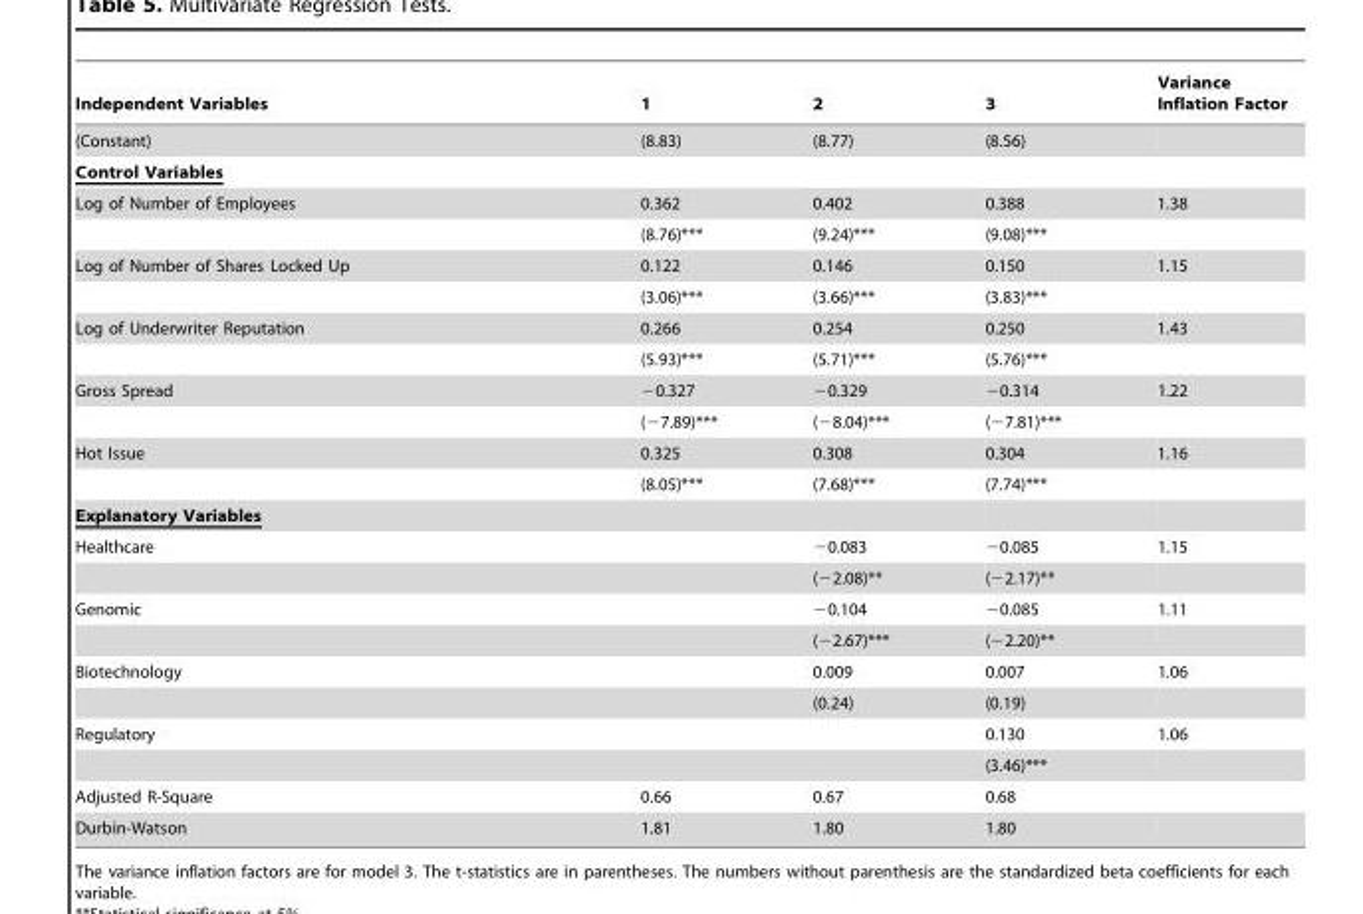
<table><thead><tr><td>Independent Variables</td><td>1</td><td>2</td><td>3</td><td>Variance Inflation Factor</td></tr></thead><tbody><tr><td>(Constant)</td><td>(8.83)</td><td>(8.77)</td><td>(8.56)</td><td></td></tr><tr><td colspan="5">Control Variables</td></tr><tr><td rowspan="2">Log of Number of Employees</td><td>0.362</td><td>0.402</td><td>0.388</td><td>1.38</td></tr><tr><td>(8.76)***</td><td>(9.24)***</td><td>(9.08)***</td><td></td></tr><tr><td rowspan="2">Log of Number of Shares Locked Up</td><td>0.122</td><td>0.146</td><td>0.150</td><td>1.15</td></tr><tr><td>(3.06)***</td><td>(3.66)***</td><td>(3.83)***</td><td></td></tr><tr><td rowspan="2">Log of Underwriter Reputation</td><td>0.266</td><td>0.254</td><td>0.250</td><td>1.43</td></tr><tr><td>(5.93)***</td><td>(5.71)***</td><td>(5.76)***</td><td></td></tr><tr><td rowspan="2">Gross Spread</td><td>−0.327</td><td>−0.329</td><td>−0.314</td><td>1.22</td></tr><tr><td>(−7.89)***</td><td>(−8.04)***</td><td>(−7.81)***</td><td></td></tr><tr><td rowspan="2">Hot Issue</td><td>0.325</td><td>0.308</td><td>0.304</td><td>1.16</td></tr><tr><td>(8.05)***</td><td>(7.68)***</td><td>(7.74)***</td><td></td></tr><tr><td colspan="5">Explanatory Variables</td></tr><tr><td rowspan="2">Healthcare</td><td></td><td>−0.083</td><td>−0.085</td><td>1.15</td></tr><tr><td></td><td>(−2.08)**</td><td>(−2.17)**</td><td></td></tr><tr><td rowspan="2">Genomic</td><td></td><td>−0.104</td><td>−0.085</td><td>1.11</td></tr><tr><td></td><td>(−2.67)***</td><td>(−2.20)**</td><td></td></tr><tr><td rowspan="2">Biotechnology</td><td></td><td>0.009</td><td>0.007</td><td>1.06</td></tr><tr><td></td><td>(0.24)</td><td>(0.19)</td><td></td></tr><tr><td rowspan="2">Regulatory</td><td></td><td></td><td>0.130</td><td>1.06</td></tr><tr><td></td><td></td><td>(3.46)***</td><td></td></tr><tr><td>Adjusted R-Square</td><td>0.66</td><td>0.67</td><td>0.68</td><td></td></tr><tr><td>Durbin-Watson</td><td>1.81</td><td>1.80</td><td>1.80</td><td></td></tr></tbody></table>